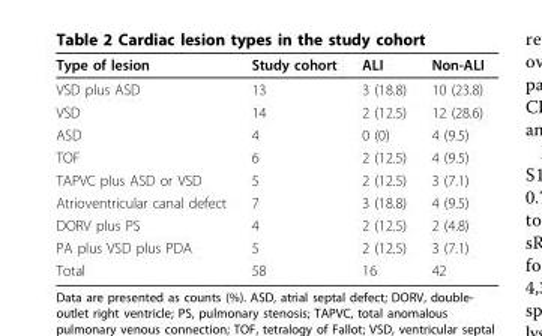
<table><thead><tr><td>Type of lesion</td><td>Study cohort</td><td>ALI</td><td>Non-ALI</td></tr></thead><tbody><tr><td>VSD plus ASD</td><td>13</td><td>3 (18.8)</td><td>10 (23.8)</td></tr><tr><td>VSD</td><td>14</td><td>2 (12.5)</td><td>12 (28.6)</td></tr><tr><td>ASD</td><td>4</td><td>0 (0)</td><td>4 (9.5)</td></tr><tr><td>TOF</td><td>6</td><td>2 (12.5)</td><td>4 (9.5)</td></tr><tr><td>TAPVC plus ASD or VSD</td><td>5</td><td>2 (12.5)</td><td>3 (7.1)</td></tr><tr><td>Atrioventricular canal defect</td><td>7</td><td>3 (18.8)</td><td>4 (9.5)</td></tr><tr><td>DORV plus PS</td><td>4</td><td>2 (12.5)</td><td>2 (4.8)</td></tr><tr><td>PA plus VSD plus PDA</td><td>5</td><td>2 (12.5)</td><td>3 (7.1)</td></tr><tr><td>Total</td><td>58</td><td>16</td><td>42</td></tr></tbody></table>